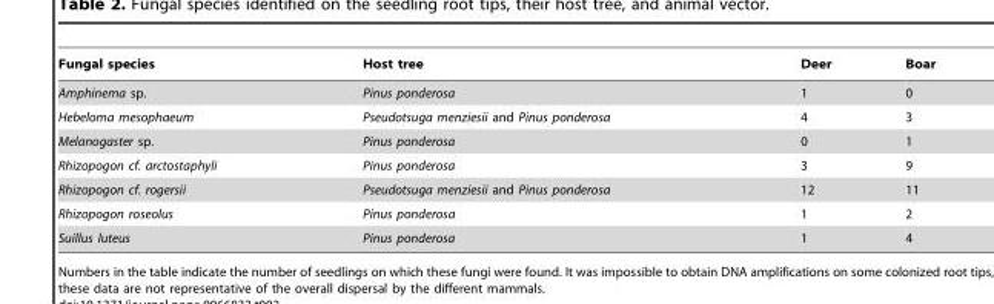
<table><thead><tr><td>Fungal species</td><td>Host tree</td><td>Deer</td><td>Boar</td></tr></thead><tbody><tr><td>Amphinema sp.</td><td>Pinus ponderosa</td><td>1</td><td>0</td></tr><tr><td>Hebeloma mesophaeum</td><td>Pseudotsuga menziesii and Pinus ponderosa</td><td>4</td><td>3</td></tr><tr><td>Melanogaster sp.</td><td>Pinus ponderosa</td><td>0</td><td>1</td></tr><tr><td>Rhizopogon cf. arctostaphyli</td><td>Pinus ponderosa</td><td>3</td><td>9</td></tr><tr><td>Rhizopogon cf. rogersii</td><td>Pseudotsuga menziesii and Pinus ponderosa</td><td>12</td><td>11</td></tr><tr><td>Rhizopogon roseolus</td><td>Pinus ponderosa</td><td>1</td><td>2</td></tr><tr><td>Suillus luteus</td><td>Pinus ponderosa</td><td>1</td><td>4</td></tr></tbody></table>